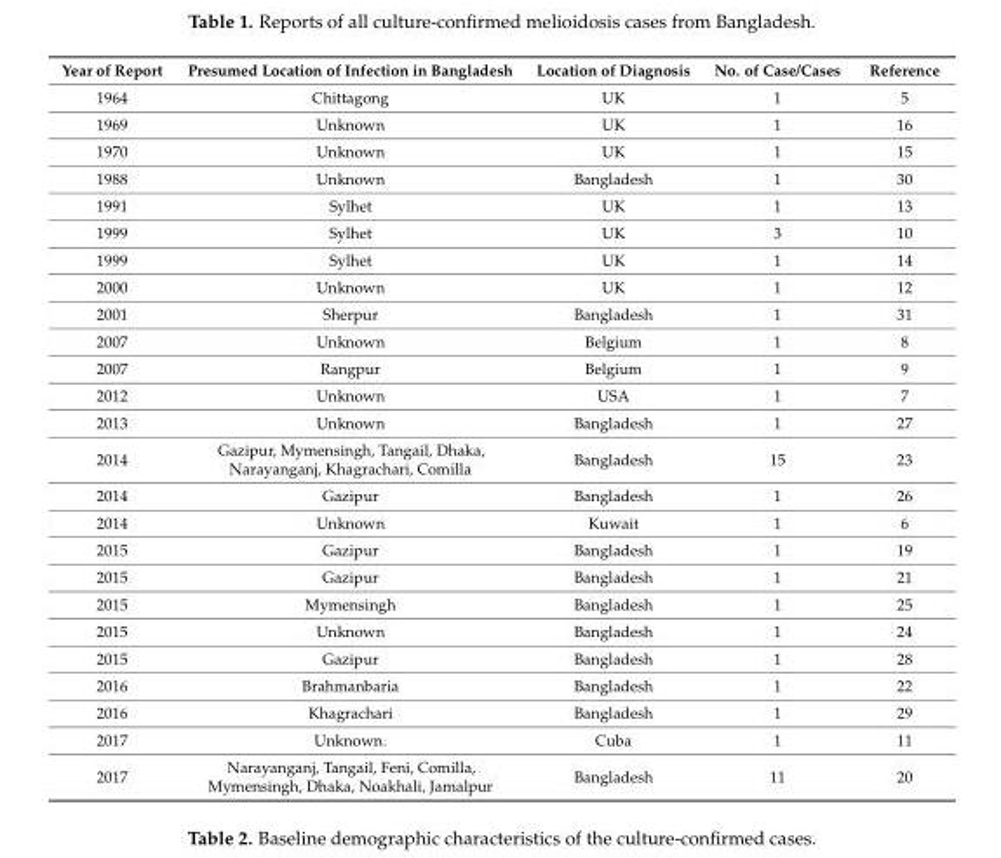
<table><thead><tr><td>Year of Report</td><td>Presumed Location of Infection in Bangladesh</td><td>Location of Diagnosis</td><td>No. of Case/Cases</td><td>Reference</td></tr></thead><tbody><tr><td>1964</td><td>Chittagong</td><td>UK</td><td>1</td><td>5</td></tr><tr><td>1969</td><td>Unknown</td><td>UK</td><td>1</td><td>16</td></tr><tr><td>1970</td><td>Unknown</td><td>UK</td><td>1</td><td>15</td></tr><tr><td>1988</td><td>Unknown</td><td>Bangladesh</td><td>1</td><td>30</td></tr><tr><td>1991</td><td>Sylhet</td><td>UK</td><td>1</td><td>13</td></tr><tr><td>1999</td><td>Sylhet</td><td>UK</td><td>3</td><td>10</td></tr><tr><td>1999</td><td>Sylhet</td><td>UK</td><td>1</td><td>14</td></tr><tr><td>2000</td><td>Unknown</td><td>UK</td><td>1</td><td>12</td></tr><tr><td>2001</td><td>Sherpur</td><td>Bangladesh</td><td>1</td><td>31</td></tr><tr><td>2007</td><td>Unknown</td><td>Belgium</td><td>1</td><td>8</td></tr><tr><td>2007</td><td>Rangpur</td><td>Belgium</td><td>1</td><td>9</td></tr><tr><td>2012</td><td>Unknown</td><td>USA</td><td>1</td><td>7</td></tr><tr><td>2013</td><td>Unknown</td><td>Bangladesh</td><td>1</td><td>27</td></tr><tr><td>2014</td><td>Gazipur, Mymensingh, Tangail, Dhaka, Narayanganj, Khagrachari, Comilla</td><td>Bangladesh</td><td>15</td><td>23</td></tr><tr><td>2014</td><td>Gazipur</td><td>Bangladesh</td><td>1</td><td>26</td></tr><tr><td>2014</td><td>Unknown</td><td>Kuwait</td><td>1</td><td>6</td></tr><tr><td>2015</td><td>Gazipur</td><td>Bangladesh</td><td>1</td><td>19</td></tr><tr><td>2015</td><td>Gazipur</td><td>Bangladesh</td><td>1</td><td>21</td></tr><tr><td>2015</td><td>Mymensingh</td><td>Bangladesh</td><td>1</td><td>25</td></tr><tr><td>2015</td><td>Unknown</td><td>Bangladesh</td><td>1</td><td>24</td></tr><tr><td>2015</td><td>Gazipur</td><td>Bangladesh</td><td>1</td><td>28</td></tr><tr><td>2016</td><td>Brahmanbaria</td><td>Bangladesh</td><td>1</td><td>22</td></tr><tr><td>2016</td><td>Khagrachari</td><td>Bangladesh</td><td>1</td><td>29</td></tr><tr><td>2017</td><td>Unknown.</td><td>Cuba</td><td>1</td><td>11</td></tr><tr><td>2017</td><td>Narayanganj, Tangail, Feni, Comilla, Mymensingh, Dhaka, Noakhali, Jamalpur</td><td>Bangladesh</td><td>11</td><td>20</td></tr></tbody></table>